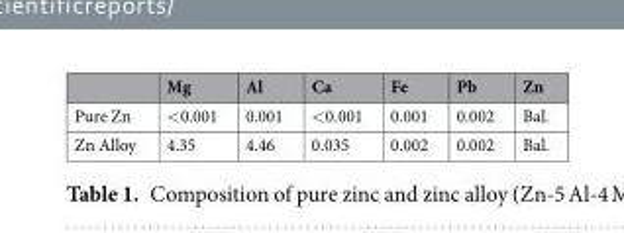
<table><thead><tr><td></td><td>Mg</td><td>Al</td><td>Ca</td><td>Fe</td><td>Pb</td><td>Zn</td></tr></thead><tbody><tr><td>Pure Zn</td><td>&lt;0.001</td><td>0.001</td><td>&lt;0.001</td><td>0.001</td><td>0.002</td><td>Bal.</td></tr><tr><td>Zn Alloy</td><td>4.35</td><td>4.46</td><td>0.035</td><td>0.002</td><td>0.002</td><td>Bal.</td></tr></tbody></table>